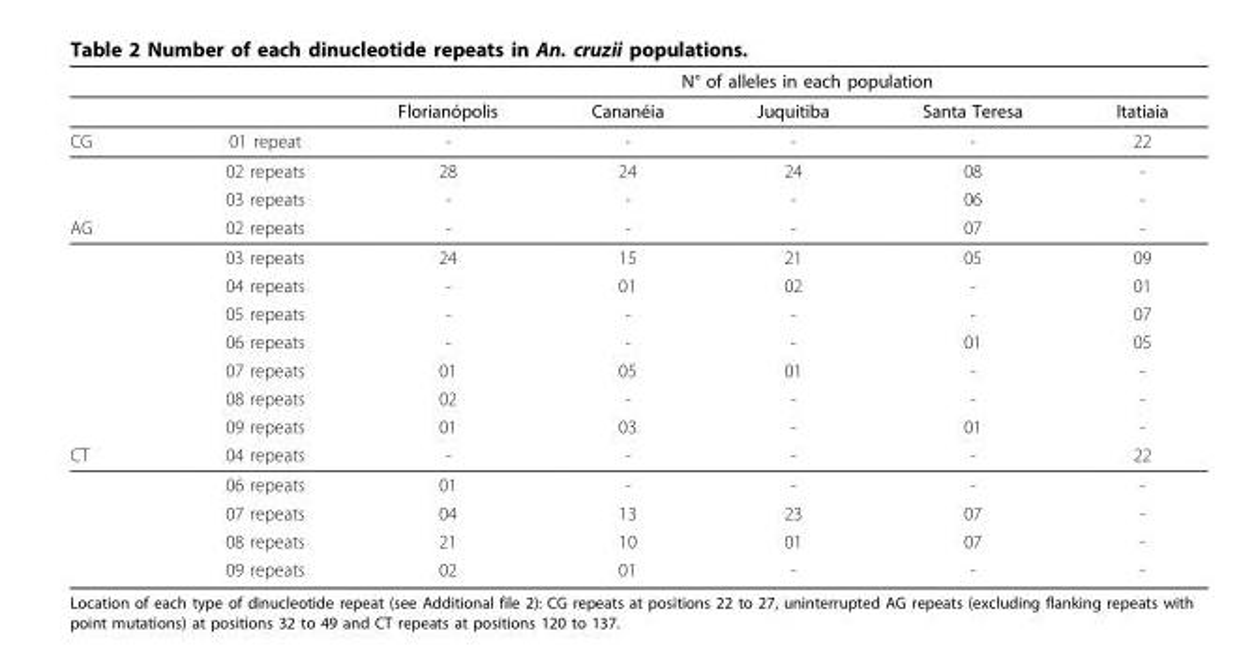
<table><thead><tr><td rowspan="2"></td><td rowspan="2"></td><td rowspan="2">Florianópolis</td><td colspan="3">N° of alleles in each population</td><td rowspan="2">Itatiaia</td></tr><tr><td>Cananéia</td><td>Juquitiba</td><td>Santa Teresa</td></tr></thead><tbody><tr><td rowspan="3">CG</td><td>01 repeat</td><td>-</td><td>-</td><td>-</td><td>-</td><td>22</td></tr><tr><td>02 repeats</td><td>28</td><td>24</td><td>24</td><td>08</td><td>-</td></tr><tr><td>03 repeats</td><td>-</td><td>-</td><td>-</td><td>06</td><td>-</td></tr><tr><td rowspan="8">AG</td><td>02 repeats</td><td>-</td><td>-</td><td>-</td><td>07</td><td>-</td></tr><tr><td>03 repeats</td><td>24</td><td>15</td><td>21</td><td>05</td><td>09</td></tr><tr><td>04 repeats</td><td>-</td><td>01</td><td>02</td><td>-</td><td>01</td></tr><tr><td>05 repeats</td><td>-</td><td>-</td><td>-</td><td>-</td><td>07</td></tr><tr><td>06 repeats</td><td>-</td><td>-</td><td>-</td><td>01</td><td>05</td></tr><tr><td>07 repeats</td><td>01</td><td>05</td><td>01</td><td>-</td><td>-</td></tr><tr><td>08 repeats</td><td>02</td><td>-</td><td>-</td><td>-</td><td>-</td></tr><tr><td>09 repeats</td><td>01</td><td>03</td><td>-</td><td>01</td><td>-</td></tr><tr><td rowspan="5">CT</td><td>04 repeats</td><td>-</td><td>-</td><td>-</td><td>-</td><td>22</td></tr><tr><td>06 repeats</td><td>01</td><td>-</td><td>-</td><td>-</td><td>-</td></tr><tr><td>07 repeats</td><td>04</td><td>13</td><td>23</td><td>07</td><td>-</td></tr><tr><td>08 repeats</td><td>21</td><td>10</td><td>01</td><td>07</td><td>-</td></tr><tr><td>09 repeats</td><td>02</td><td>01</td><td>-</td><td>-</td><td>-</td></tr></tbody></table>